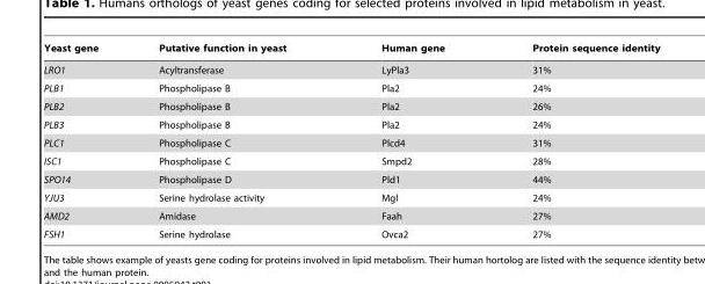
<table><thead><tr><td>Yeast gene</td><td>Putative function in yeast</td><td>Human gene</td><td>Protein sequence identity</td></tr></thead><tbody><tr><td>LRO1</td><td>Acyltransferase</td><td>LyPla3</td><td>31%</td></tr><tr><td>PLB1</td><td>Phospholipase B</td><td>Pla2</td><td>24%</td></tr><tr><td>PLB2</td><td>Phospholipase B</td><td>Pla2</td><td>26%</td></tr><tr><td>PLB3</td><td>Phospholipase B</td><td>Pla2</td><td>24%</td></tr><tr><td>PLC1</td><td>Phospholipase C</td><td>Plcd4</td><td>31%</td></tr><tr><td>ISC1</td><td>Phospholipase C</td><td>Smpd2</td><td>28%</td></tr><tr><td>SPO14</td><td>Phospholipase D</td><td>Pld1</td><td>44%</td></tr><tr><td>YJU3</td><td>Serine hydrolase activity</td><td>Mgl</td><td>24%</td></tr><tr><td>AMD2</td><td>Amidase</td><td>Faah</td><td>27%</td></tr><tr><td>FSH1</td><td>Serine hydrolase</td><td>Ovca2</td><td>27%</td></tr></tbody></table>